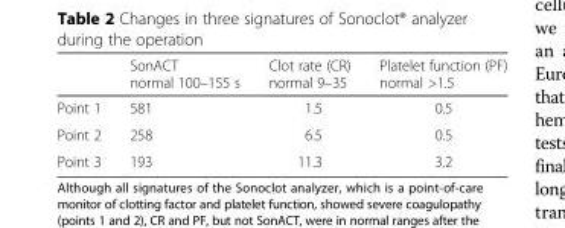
<table><thead><tr><td></td><td>SonACT normal 100–155 s</td><td>Clot rate (CR) normal 9–35</td><td>Platelet function (PF) normal &gt;1.5</td></tr></thead><tbody><tr><td>Point 1</td><td>581</td><td>1.5</td><td>0.5</td></tr><tr><td>Point 2</td><td>258</td><td>6.5</td><td>0.5</td></tr><tr><td>Point 3</td><td>193</td><td>11.3</td><td>3.2</td></tr></tbody></table>